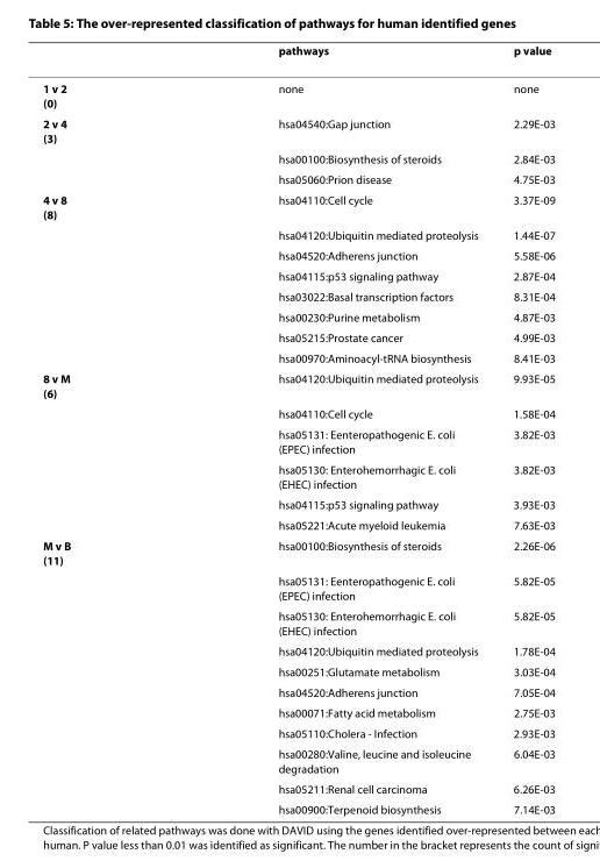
<table><thead><tr><td></td><td>pathways</td><td>p value</td></tr></thead><tbody><tr><td>1 v 2 (0)</td><td>none</td><td>none</td></tr><tr><td rowspan="3">2 v 4 (3)</td><td>hsa04540:Gap junction</td><td>2.29E-03</td></tr><tr><td>hsa00100:Biosynthesis of steroids</td><td>2.84E-03</td></tr><tr><td>hsa05060:Prion disease</td><td>4.75E-03</td></tr><tr><td rowspan="8">4 v 8 (8)</td><td>hsa04110:Cell cycle</td><td>3.37E-09</td></tr><tr><td>hsa04120:Ubiquitin mediated proteolysis</td><td>1.44E-07</td></tr><tr><td>hsa04520:Adherens junction</td><td>5.58E-06</td></tr><tr><td>hsa04115:p53 signaling pathway</td><td>2.87E-04</td></tr><tr><td>hsa03022:Basal transcription factors</td><td>8.31E-04</td></tr><tr><td>hsa00230:Purine metabolism</td><td>4.87E-03</td></tr><tr><td>hsa05215:Prostate cancer</td><td>4.99E-03</td></tr><tr><td>hsa00970:Aminoacyl-tRNA biosynthesis</td><td>8.41E-03</td></tr><tr><td rowspan="6">8 v M (6)</td><td>hsa04120:Ubiquitin mediated proteolysis</td><td>9.93E-05</td></tr><tr><td>hsa04110:Cell cycle</td><td>1.58E-04</td></tr><tr><td>hsa05131: Eenteropathogenic E. coli (EPEC) infection</td><td>3.82E-03</td></tr><tr><td>hsa05130: Enterohemorrhagic E. coli (EHEC) infection</td><td>3.82E-03</td></tr><tr><td>hsa04115:p53 signaling pathway</td><td>3.93E-03</td></tr><tr><td>hsa05221:Acute myeloid leukemia</td><td>7.63E-03</td></tr><tr><td rowspan="11">M v B (11)</td><td>hsa00100:Biosynthesis of steroids</td><td>2.26E-06</td></tr><tr><td>hsa05131: Eenteropathogenic E. coli (EPEC) infection</td><td>5.82E-05</td></tr><tr><td>hsa05130: Enterohemorrhagic E. coli (EHEC) infection</td><td>5.82E-05</td></tr><tr><td>hsa04120:Ubiquitin mediated proteolysis</td><td>1.78E-04</td></tr><tr><td>hsa00251:Glutamate metabolism</td><td>3.03E-04</td></tr><tr><td>hsa04520:Adherens junction</td><td>7.05E-04</td></tr><tr><td>hsa00071:Fatty acid metabolism</td><td>2.75E-03</td></tr><tr><td>hsa05110:Cholera - Infection</td><td>2.93E-03</td></tr><tr><td>hsa00280:Valine, leucine and isoleucine degradation</td><td>6.04E-03</td></tr><tr><td>hsa05211:Renal cell carcinoma</td><td>6.26E-03</td></tr><tr><td>hsa00900:Terpenoid biosynthesis</td><td>7.14E-03</td></tr></tbody></table>